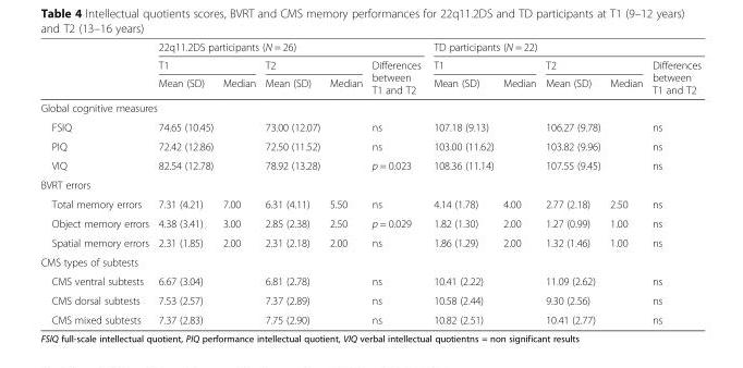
<table><thead><tr><td rowspan="3"></td><td colspan="5">22q11.2DS participants (N = 26)</td><td colspan="5">TD participants (N = 22)</td></tr><tr><td colspan="2">T1</td><td colspan="2">T2</td><td rowspan="2">Differences between T1 and T2</td><td colspan="2">T1</td><td colspan="2">T2</td><td rowspan="2">Differences between T1 and T2</td></tr><tr><td>Mean (SD)</td><td>Median</td><td>Mean (SD)</td><td>Median</td><td>Mean (SD)</td><td>Median</td><td>Mean (SD)</td><td>Median</td></tr></thead><tbody><tr><td colspan="11">Global cognitive measures</td></tr><tr><td>FSIQ</td><td>74.65 (10.45)</td><td></td><td>73.00 (12.07)</td><td></td><td>ns</td><td>107.18 (9.13)</td><td></td><td>106.27 (9.78)</td><td></td><td>ns</td></tr><tr><td>PIQ</td><td>72.42 (12.86)</td><td></td><td>72.50 (11.52)</td><td></td><td>ns</td><td>103.00 (11.62)</td><td></td><td>103.82 (9.96)</td><td></td><td>ns</td></tr><tr><td>VIQ</td><td>82.54 (12.78)</td><td></td><td>78.92 (13.28)</td><td></td><td>p = 0.023</td><td>108.36 (11.14)</td><td></td><td>107.55 (9.45)</td><td></td><td>ns</td></tr><tr><td colspan="11">BVRT errors</td></tr><tr><td>Total memory errors</td><td>7.31 (4.21)</td><td>7.00</td><td>6.31 (4.11)</td><td>5.50</td><td>ns</td><td>4.14 (1.78)</td><td>4.00</td><td>2.77 (2.18)</td><td>2.50</td><td>ns</td></tr><tr><td>Object memory errors</td><td>4.38 (3.41)</td><td>3.00</td><td>2.85 (2.38)</td><td>2.50</td><td>p = 0.029</td><td>1.82 (1.30)</td><td>2.00</td><td>1.27 (0.99)</td><td>1.00</td><td>ns</td></tr><tr><td>Spatial memory errors</td><td>2.31 (1.85)</td><td>2.00</td><td>2.31 (2.18)</td><td>2.00</td><td>ns</td><td>1.86 (1.29)</td><td>2.00</td><td>1.32 (1.46)</td><td>1.00</td><td>ns</td></tr><tr><td colspan="11">CMS types of subtests</td></tr><tr><td>CMS ventral subtests</td><td>6.67 (3.04)</td><td></td><td>6.81 (2.78)</td><td></td><td>ns</td><td>10.41 (2.22)</td><td></td><td>11.09 (2.62)</td><td></td><td>ns</td></tr><tr><td>CMS dorsal subtests</td><td>7.53 (2.57)</td><td></td><td>7.37 (2.89)</td><td></td><td>ns</td><td>10.58 (2.44)</td><td></td><td>9.30 (2.56)</td><td></td><td>ns</td></tr><tr><td>CMS mixed subtests</td><td>7.37 (2.83)</td><td></td><td>7.75 (2.90)</td><td></td><td>ns</td><td>10.82 (2.51)</td><td></td><td>10.41 (2.77)</td><td></td><td>ns</td></tr></tbody></table>